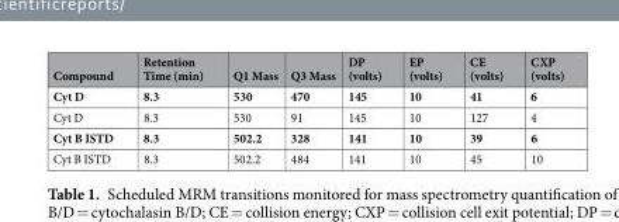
<table><thead><tr><td>Compound</td><td>Retention Time (min)</td><td>Q1 Mass</td><td>Q3 Mass</td><td>DP (volts)</td><td>EP (volts)</td><td>CE (volts)</td><td>CXP (volts)</td></tr></thead><tbody><tr><td>Cyt D</td><td>8.3</td><td>530</td><td>470</td><td>145</td><td>10</td><td>41</td><td>6</td></tr><tr><td>Cyt D</td><td>8.3</td><td>530</td><td>91</td><td>145</td><td>10</td><td>127</td><td>4</td></tr><tr><td>Cyt B ISTD</td><td>8.3</td><td>502.2</td><td>328</td><td>141</td><td>10</td><td>39</td><td>6</td></tr><tr><td>Cyt B ISTD</td><td>8.3</td><td>502.2</td><td>484</td><td>141</td><td>10</td><td>45</td><td>10</td></tr></tbody></table>